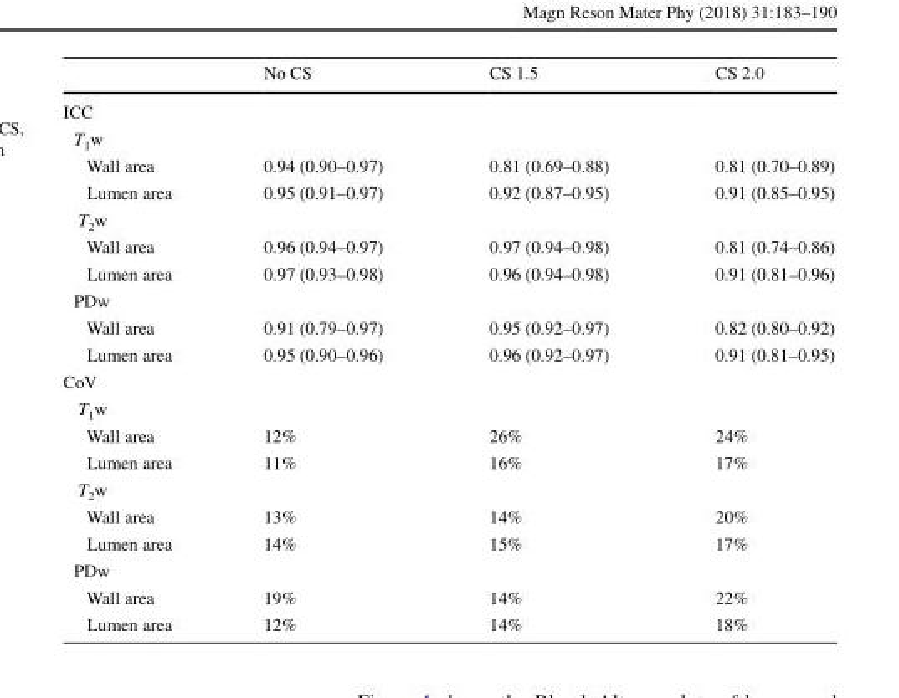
<table><thead><tr><td></td><td>No CS</td><td>CS 1.5</td><td>CS 2.0</td></tr></thead><tbody><tr><td colspan="4">ICC</td></tr><tr><td colspan="4">T<sub>1</sub>w</td></tr><tr><td>Wall area</td><td>0.94 (0.90–0.97)</td><td>0.81 (0.69–0.88)</td><td>0.81 (0.70–0.89)</td></tr><tr><td>Lumen area</td><td>0.95 (0.91–0.97)</td><td>0.92 (0.87–0.95)</td><td>0.91 (0.85–0.95)</td></tr><tr><td colspan="4">T<sub>2</sub>w</td></tr><tr><td>Wall area</td><td>0.96 (0.94–0.97)</td><td>0.97 (0.94–0.98)</td><td>0.81 (0.74–0.86)</td></tr><tr><td>Lumen area</td><td>0.97 (0.93–0.98)</td><td>0.96 (0.94–0.98)</td><td>0.91 (0.81–0.96)</td></tr><tr><td colspan="4">PDw</td></tr><tr><td>Wall area</td><td>0.91 (0.79–0.97)</td><td>0.95 (0.92–0.97)</td><td>0.82 (0.80–0.92)</td></tr><tr><td>Lumen area</td><td>0.95 (0.90–0.96)</td><td>0.96 (0.92–0.97)</td><td>0.91 (0.81–0.95)</td></tr><tr><td colspan="4">CoV</td></tr><tr><td colspan="4">T<sub>1</sub>w</td></tr><tr><td>Wall area</td><td>12%</td><td>26%</td><td>24%</td></tr><tr><td>Lumen area</td><td>11%</td><td>16%</td><td>17%</td></tr><tr><td colspan="4">T<sub>2</sub>w</td></tr><tr><td>Wall area</td><td>13%</td><td>14%</td><td>20%</td></tr><tr><td>Lumen area</td><td>14%</td><td>15%</td><td>17%</td></tr><tr><td colspan="4">PDw</td></tr><tr><td>Wall area</td><td>19%</td><td>14%</td><td>22%</td></tr><tr><td>Lumen area</td><td>12%</td><td>14%</td><td>18%</td></tr></tbody></table>